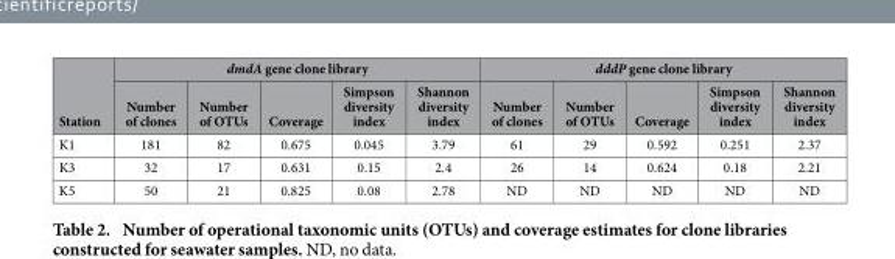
<table><thead><tr><td rowspan="2">Station</td><td colspan="5">dmdA gene clone library</td><td colspan="5">dddP gene clone library</td></tr><tr><td>Number of clones</td><td>Number of OTUs</td><td>Coverage</td><td>Simpson diversity index</td><td>Shannon diversity index</td><td>Number of clones</td><td>Number of OTUs</td><td>Coverage</td><td>Simpson diversity index</td><td>Shannon diversity index</td></tr></thead><tbody><tr><td>K1</td><td>181</td><td>82</td><td>0.675</td><td>0.045</td><td>3.79</td><td>61</td><td>29</td><td>0.592</td><td>0.251</td><td>2.37</td></tr><tr><td>K3</td><td>32</td><td>17</td><td>0.631</td><td>0.15</td><td>2.4</td><td>26</td><td>14</td><td>0.624</td><td>0.18</td><td>2.21</td></tr><tr><td>K5</td><td>50</td><td>21</td><td>0.825</td><td>0.08</td><td>2.78</td><td>ND</td><td>ND</td><td>ND</td><td>ND</td><td>ND</td></tr></tbody></table>